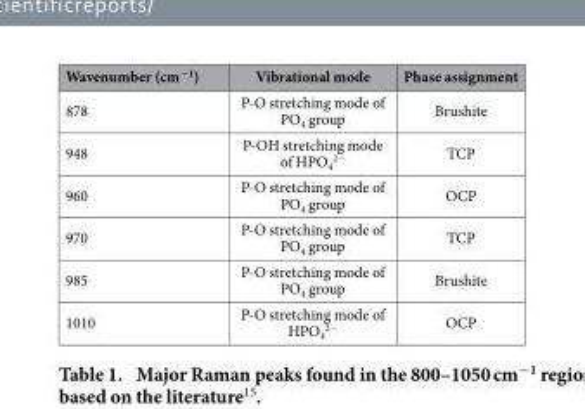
<table><thead><tr><td>Wavenumber (cm<sup>−1</sup>)</td><td>Vibrational mode</td><td>Phase assignment</td></tr></thead><tbody><tr><td>878</td><td>P-O stretching mode of PO<sub>4</sub> group</td><td>Brushite</td></tr><tr><td>948</td><td>P-OH stretching mode of HPO<sub>4</sub> <sup>2−</sup></td><td>TCP</td></tr><tr><td>960</td><td>P-O stretching mode of PO<sub>4</sub> group</td><td>OCP</td></tr><tr><td>970</td><td>P-O stretching mode of PO<sub>4</sub> group</td><td>TCP</td></tr><tr><td>985</td><td>P-O stretching mode of PO<sub>4</sub> group</td><td>Brushite</td></tr><tr><td>1010</td><td>P-O stretching mode of HPO<sub>4</sub> <sup>2−</sup></td><td>OCP</td></tr></tbody></table>